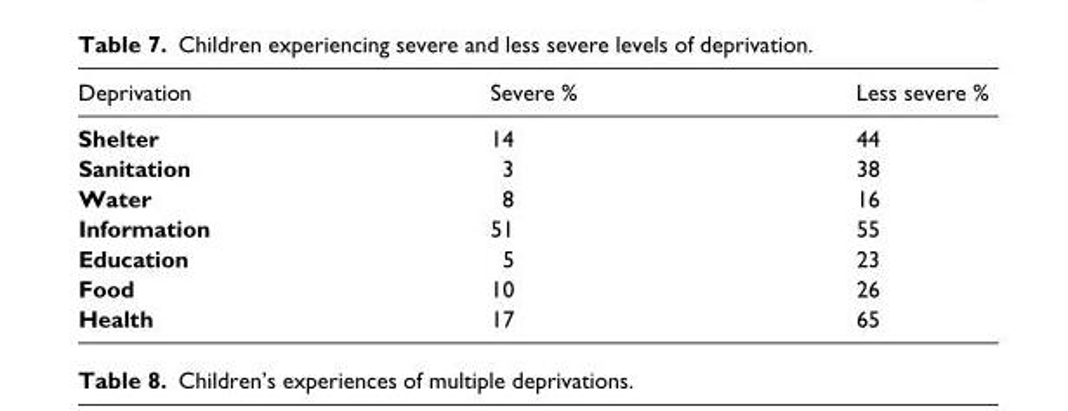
<table><thead><tr><td>Deprivation</td><td>Severe %</td><td>Less severe %</td></tr></thead><tbody><tr><td>Shelter</td><td>14</td><td>44</td></tr><tr><td>Sanitation</td><td>3</td><td>38</td></tr><tr><td>Water</td><td>8</td><td>16</td></tr><tr><td>Information</td><td>51</td><td>55</td></tr><tr><td>Education</td><td>5</td><td>23</td></tr><tr><td>Food</td><td>10</td><td>26</td></tr><tr><td>Health</td><td>17</td><td>65</td></tr></tbody></table>